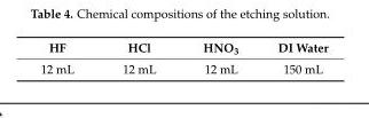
<table><thead><tr><td>HF</td><td>HCl</td><td>HNO<sub>3</sub></td><td>DI Water</td></tr></thead><tbody><tr><td>12 mL</td><td>12 mL</td><td>12 mL</td><td>150 mL</td></tr></tbody></table>